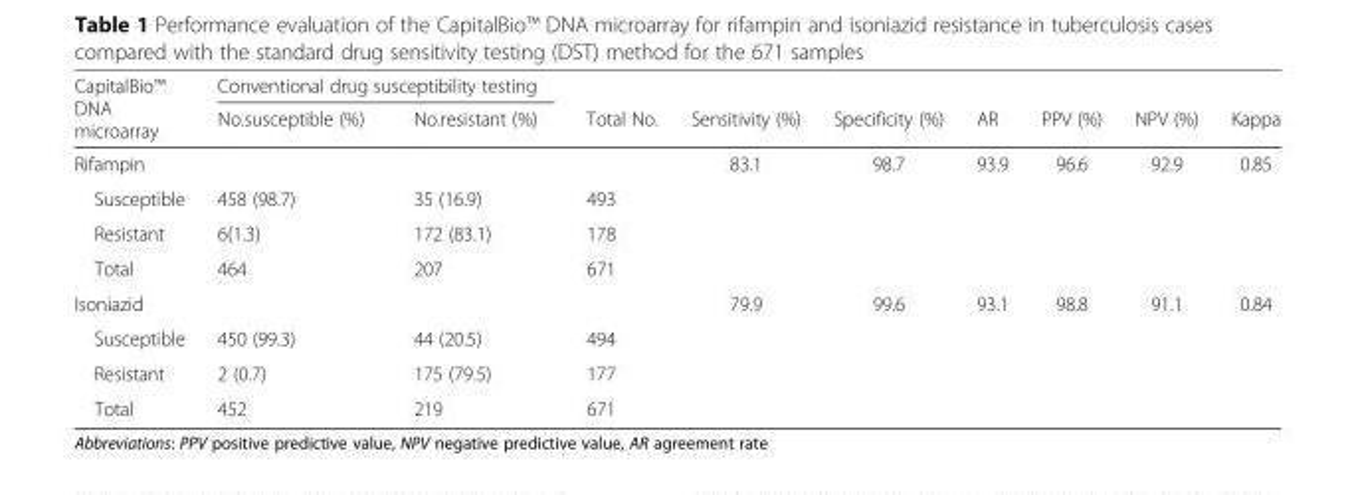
<table><thead><tr><td rowspan="2">CapitalBio™ DNA microarray</td><td colspan="2">Conventional drug susceptibility testing</td><td rowspan="2">Total No.</td><td rowspan="2">Sensitivity (%)</td><td rowspan="2">Specificity (%)</td><td rowspan="2">AR</td><td rowspan="2">PPV (%)</td><td rowspan="2">NPV (%)</td><td rowspan="2">Kappa</td></tr><tr><td>No.susceptible (%)</td><td>No.resistant (%)</td></tr></thead><tbody><tr><td>Rifampin</td><td></td><td></td><td></td><td>83.1</td><td>98.7</td><td>93.9</td><td>96.6</td><td>92.9</td><td>0.85</td></tr><tr><td>Susceptible</td><td>458 (98.7)</td><td>35 (16.9)</td><td>493</td><td></td><td></td><td></td><td></td><td></td><td></td></tr><tr><td>Resistant</td><td>6(1.3)</td><td>172 (83.1)</td><td>178</td><td></td><td></td><td></td><td></td><td></td><td></td></tr><tr><td>Total</td><td>464</td><td>207</td><td>671</td><td></td><td></td><td></td><td></td><td></td><td></td></tr><tr><td>Isoniazid</td><td></td><td></td><td></td><td>79.9</td><td>99.6</td><td>93.1</td><td>98.8</td><td>91.1</td><td>0.84</td></tr><tr><td>Susceptible</td><td>450 (99.3)</td><td>44 (20.5)</td><td>494</td><td></td><td></td><td></td><td></td><td></td><td></td></tr><tr><td>Resistant</td><td>2 (0.7)</td><td>175 (79.5)</td><td>177</td><td></td><td></td><td></td><td></td><td></td><td></td></tr><tr><td>Total</td><td>452</td><td>219</td><td>671</td><td></td><td></td><td></td><td></td><td></td><td></td></tr></tbody></table>